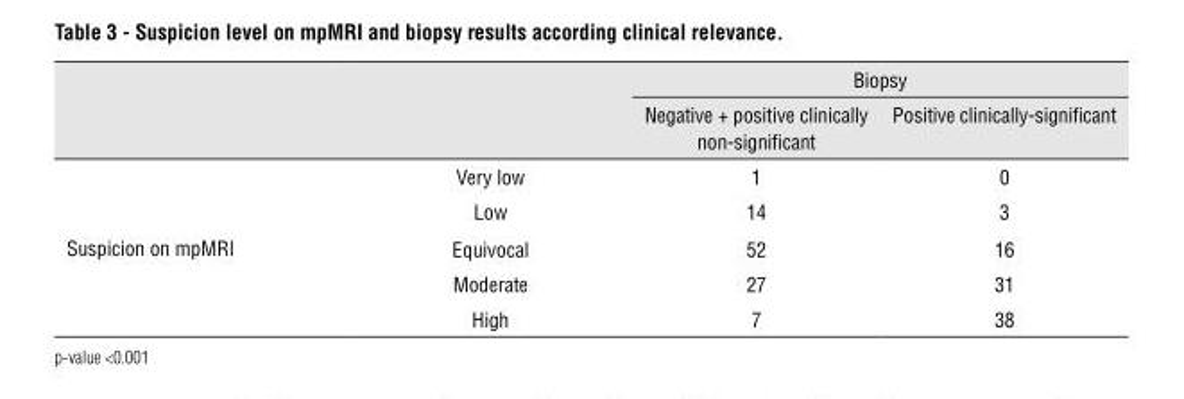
<table><thead><tr><td rowspan="2"></td><td rowspan="2"></td><td colspan="2">Biopsy</td></tr><tr><td>Negative + positive clinically non-signifi cant</td><td>Positive clinically-signifi cant</td></tr></thead><tbody><tr><td rowspan="5">Suspicion on mpMRI</td><td>Very low</td><td>1</td><td>0</td></tr><tr><td>Low</td><td>14</td><td>3</td></tr><tr><td>Equivocal</td><td>52</td><td>16</td></tr><tr><td>Moderate</td><td>27</td><td>31</td></tr><tr><td>High</td><td>7</td><td>38</td></tr></tbody></table>